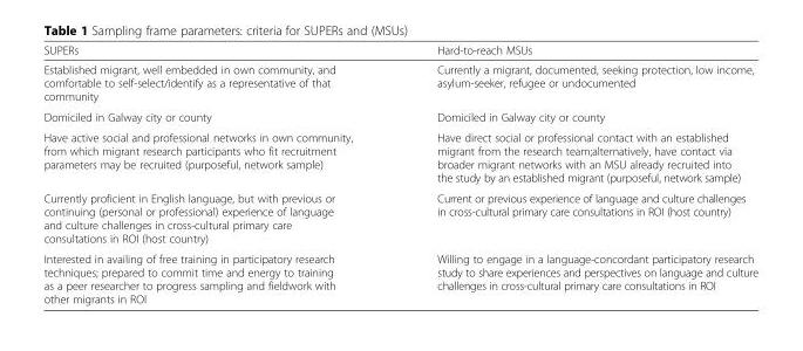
<table><thead><tr><td>SUPERs</td><td>Hard-to-reach MSUs</td></tr></thead><tbody><tr><td>Established migrant, well embedded in own community, and comfortable to self-select/identify as a representative of that community</td><td>Currently a migrant, documented, seeking protection, low income, asylum-seeker, refugee or undocumented</td></tr><tr><td>Domiciled in Galway city or county</td><td>Domiciled in Galway city or county</td></tr><tr><td>Have active social and professional networks in own community, from which migrant research participants who fit recruitment parameters may be recruited (purposeful, network sample)</td><td>Have direct social or professional contact with an established migrant from the research team;alternatively, have contact via broader migrant networks with an MSU already recruited into the study by an established migrant (purposeful, network sample)</td></tr><tr><td>Currently proficient in English language, but with previous or continuing (personal or professional) experience of language and culture challenges in cross-cultural primary care consultations in ROI (host country)</td><td>Current or previous experience of language and culture challenges in cross-cultural primary care consultations in ROI (host country)</td></tr><tr><td>Interested in availing of free training in participatory research techniques; prepared to commit time and energy to training as a peer researcher to progress sampling and fieldwork with other migrants in ROI</td><td>Willing to engage in a language-concordant participatory research study to share experiences and perspectives on language and culture challenges in cross-cultural primary care consultations in ROI</td></tr></tbody></table>